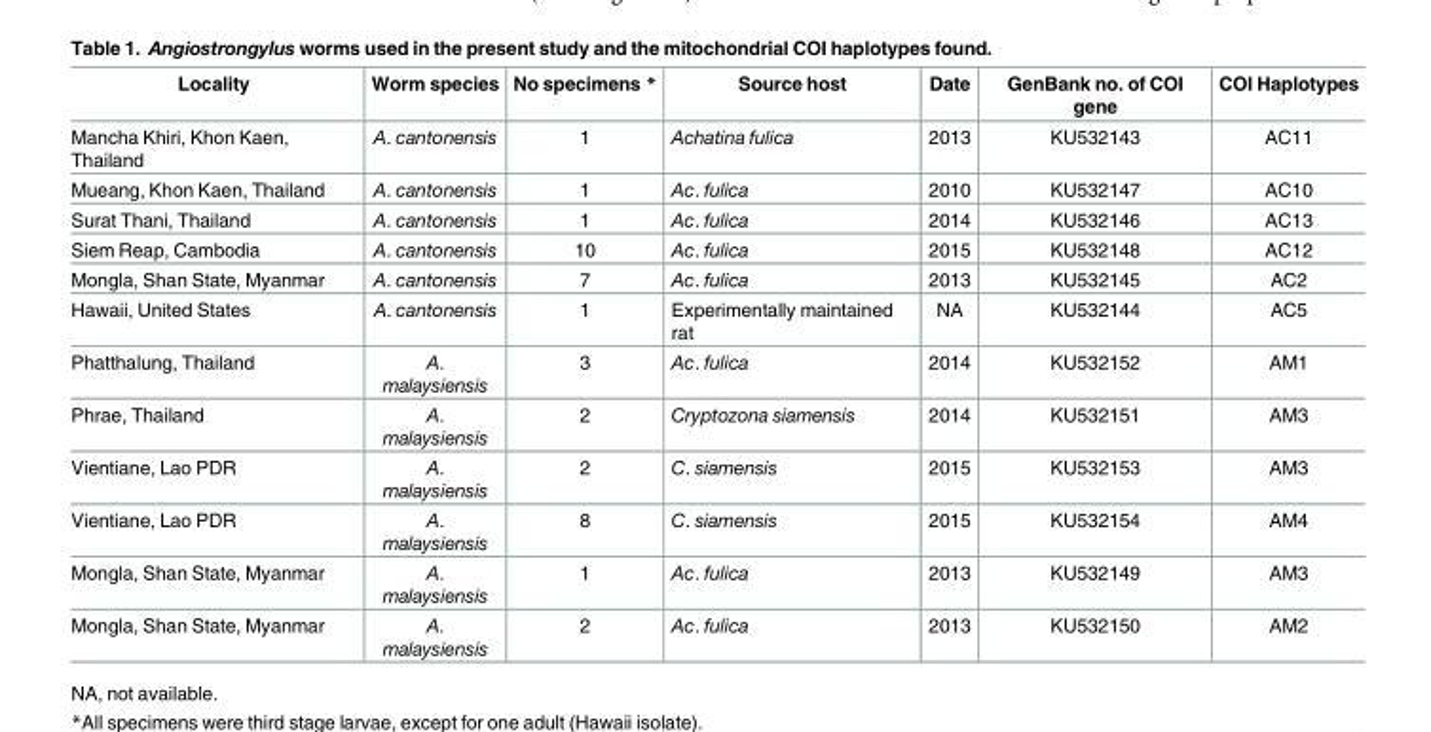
<table><thead><tr><td>Locality</td><td>Worm species</td><td>No specimens *</td><td>Source host</td><td>Date</td><td>GenBank no. of COI gene</td><td>COI Haplotypes</td></tr></thead><tbody><tr><td>Mancha Khiri, Khon Kaen, Thailand</td><td>A. cantonensis</td><td>1</td><td>Achatina fulica</td><td>2013</td><td>KU532143</td><td>AC11</td></tr><tr><td>Mueang, Khon Kaen, Thailand</td><td>A. cantonensis</td><td>1</td><td>Ac. fulica</td><td>2010</td><td>KU532147</td><td>AC10</td></tr><tr><td>Surat Thani, Thailand</td><td>A. cantonensis</td><td>1</td><td>Ac. fulica</td><td>2014</td><td>KU532146</td><td>AC13</td></tr><tr><td>Siem Reap, Cambodia</td><td>A. cantonensis</td><td>10</td><td>Ac. fulica</td><td>2015</td><td>KU532148</td><td>AC12</td></tr><tr><td>Mongla, Shan State, Myanmar</td><td>A. cantonensis</td><td>7</td><td>Ac. fulica</td><td>2013</td><td>KU532145</td><td>AC2</td></tr><tr><td>Hawaii, United States</td><td>A. cantonensis</td><td>1</td><td>Experimentally maintained rat</td><td>NA</td><td>KU532144</td><td>AC5</td></tr><tr><td>Phatthalung, Thailand</td><td>A. malaysiensis</td><td>3</td><td>Ac. fulica</td><td>2014</td><td>KU532152</td><td>AM1</td></tr><tr><td>Phrae, Thailand</td><td>A. malaysiensis</td><td>2</td><td>Cryptozona siamensis</td><td>2014</td><td>KU532151</td><td>AM3</td></tr><tr><td>Vientiane, Lao PDR</td><td>A. malaysiensis</td><td>2</td><td>C. siamensis</td><td>2015</td><td>KU532153</td><td>AM3</td></tr><tr><td>Vientiane, Lao PDR</td><td>A. malaysiensis</td><td>8</td><td>C. siamensis</td><td>2015</td><td>KU532154</td><td>AM4</td></tr><tr><td>Mongla, Shan State, Myanmar</td><td>A. malaysiensis</td><td>1</td><td>Ac. fulica</td><td>2013</td><td>KU532149</td><td>AM3</td></tr><tr><td>Mongla, Shan State, Myanmar</td><td>A. malaysiensis</td><td>2</td><td>Ac. fulica</td><td>2013</td><td>KU532150</td><td>AM2</td></tr></tbody></table>